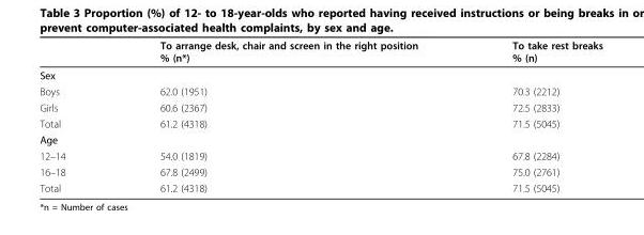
<table><thead><tr><td></td><td>To arrange desk, chair and screen in the right position % (n*)</td><td>To take rest breaks % (n)</td></tr></thead><tbody><tr><td colspan="3">Sex</td></tr><tr><td>Boys</td><td>62.0 (1951)</td><td>70.3 (2212)</td></tr><tr><td>Girls</td><td>60.6 (2367)</td><td>72.5 (2833)</td></tr><tr><td>Total</td><td>61.2 (4318)</td><td>71.5 (5045)</td></tr><tr><td colspan="3">Age</td></tr><tr><td>12–14</td><td>54.0 (1819)</td><td>67.8 (2284)</td></tr><tr><td>16–18</td><td>67.8 (2499)</td><td>75.0 (2761)</td></tr><tr><td>Total</td><td>61.2 (4318)</td><td>71.5 (5045)</td></tr></tbody></table>